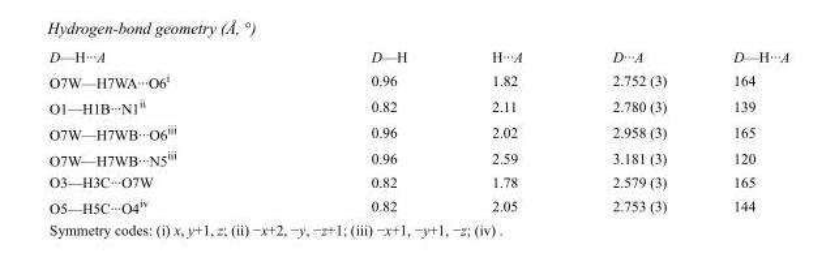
<table><tbody><tr><td>D—H···A</td><td>D—H</td><td>H···A</td><td>D···A</td><td>D—H···A</td></tr><tr><td>O7W—H7WA···O6<sup>i</sup></td><td>0.96</td><td>1.82</td><td>2.752 (3)</td><td>164</td></tr><tr><td>O1—H1B···N1<sup>ii</sup></td><td>0.82</td><td>2.11</td><td>2.780 (3)</td><td>139</td></tr><tr><td>O7W—H7WB···O6<sup>iii</sup></td><td>0.96</td><td>2.02</td><td>2.958 (3)</td><td>165</td></tr><tr><td>O7W—H7WB···N5<sup>iii</sup></td><td>0.96</td><td>2.59</td><td>3.181 (3)</td><td>120</td></tr><tr><td>O3—H3C···O7W</td><td>0.82</td><td>1.78</td><td>2.579 (3)</td><td>165</td></tr><tr><td>O5—H5C···O4<sup>iv</sup></td><td>0.82</td><td>2.05</td><td>2.753 (3)</td><td>144</td></tr></tbody></table>